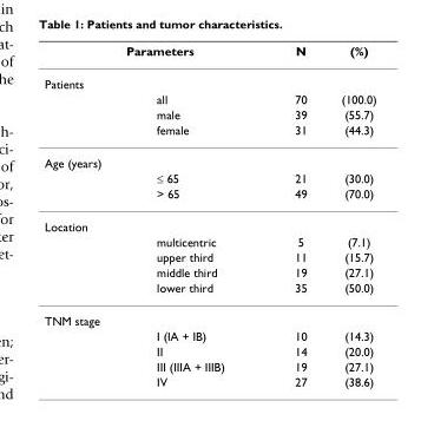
<table><thead><tr><td colspan="2">Parameters</td><td rowspan="2">N</td><td rowspan="2">(%)</td></tr><tr><td>Patients</td><td></td></tr></thead><tbody><tr><td></td><td>all</td><td>70</td><td>(100.0)</td></tr><tr><td></td><td>male</td><td>39</td><td>(55.7)</td></tr><tr><td></td><td>female</td><td>31</td><td>(44.3)</td></tr><tr><td colspan="4">Age (years)</td></tr><tr><td></td><td>≤ 65</td><td>21</td><td>(30.0)</td></tr><tr><td></td><td>&gt; 65</td><td>49</td><td>(70.0)</td></tr><tr><td colspan="4">Location</td></tr><tr><td></td><td>multicentric</td><td>5</td><td>(7.1)</td></tr><tr><td></td><td>upper third</td><td>11</td><td>(15.7)</td></tr><tr><td></td><td>middle third</td><td>19</td><td>(27.1)</td></tr><tr><td></td><td>lower third</td><td>35</td><td>(50.0)</td></tr><tr><td colspan="4">TNM stage</td></tr><tr><td></td><td>I (IA + IB)</td><td>10</td><td>(14.3)</td></tr><tr><td></td><td>II</td><td>14</td><td>(20.0)</td></tr><tr><td></td><td>III (IIIA + IIIB)</td><td>19</td><td>(27.1)</td></tr><tr><td></td><td>IV</td><td>27</td><td>(38.6)</td></tr></tbody></table>